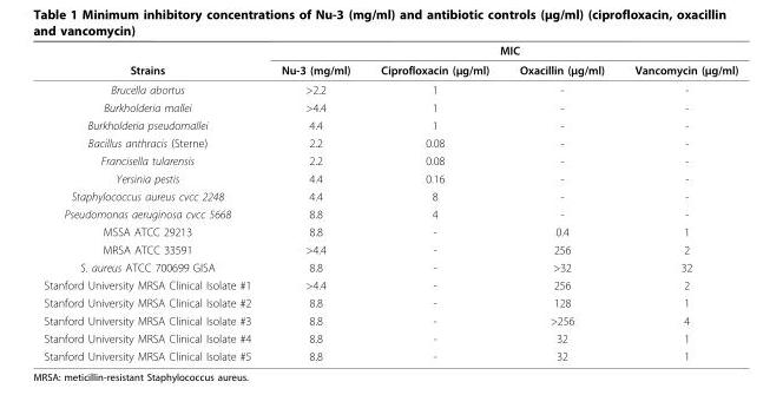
<table><thead><tr><td rowspan="2">Strains</td><td colspan="4">MIC</td></tr><tr><td>Nu-3 (mg/ml)</td><td>Ciprofloxacin (μg/ml)</td><td>Oxacillin (μg/ml)</td><td>Vancomycin (μg/ml)</td></tr></thead><tbody><tr><td>Brucella abortus</td><td>&gt;2.2</td><td>1</td><td>-</td><td>-</td></tr><tr><td>Burkholderia mallei</td><td>&gt;4.4</td><td>1</td><td>-</td><td>-</td></tr><tr><td>Burkholderia pseudomallei</td><td>4.4</td><td>1</td><td>-</td><td>-</td></tr><tr><td>Bacillus anthracis (Sterne)</td><td>2.2</td><td>0.08</td><td>-</td><td>-</td></tr><tr><td>Francisella tularensis</td><td>2.2</td><td>0.08</td><td>-</td><td>-</td></tr><tr><td>Yersinia pestis</td><td>4.4</td><td>0.16</td><td>-</td><td>-</td></tr><tr><td>Staphylococcus aureus cvcc 2248</td><td>4.4</td><td>8</td><td>-</td><td>-</td></tr><tr><td>Pseudomonas aeruginosa cvcc 5668</td><td>8.8</td><td>4</td><td>-</td><td>-</td></tr><tr><td>MSSA ATCC 29213</td><td>8.8</td><td>-</td><td>0.4</td><td>1</td></tr><tr><td>MRSA ATCC 33591</td><td>&gt;4.4</td><td>-</td><td>256</td><td>2</td></tr><tr><td>S. aureus ATCC 700699 GISA</td><td>8.8</td><td>-</td><td>&gt;32</td><td>32</td></tr><tr><td>Stanford University MRSA Clinical Isolate #1</td><td>&gt;4.4</td><td>-</td><td>256</td><td>2</td></tr><tr><td>Stanford University MRSA Clinical Isolate #2</td><td>8.8</td><td>-</td><td>128</td><td>1</td></tr><tr><td>Stanford University MRSA Clinical Isolate #3</td><td>8.8</td><td>-</td><td>&gt;256</td><td>4</td></tr><tr><td>Stanford University MRSA Clinical Isolate #4</td><td>8.8</td><td>-</td><td>32</td><td>1</td></tr><tr><td>Stanford University MRSA Clinical Isolate #5</td><td>8.8</td><td>-</td><td>32</td><td>1</td></tr></tbody></table>